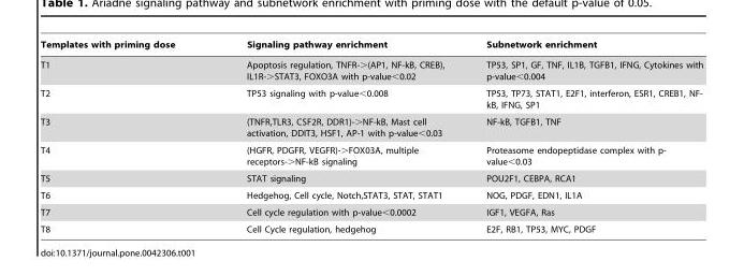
<table><thead><tr><td>Templates with priming dose</td><td>Signaling pathway enrichment</td><td>Subnetwork enrichment</td></tr></thead><tbody><tr><td>T1</td><td>Apoptosis regulation, TNFR-&gt;(AP1, NF-kB, CREB), IL1R-&gt;STAT3, FOXO3A with p-value&lt;0.02</td><td>TP53, SP1, GF, TNF, IL1B, TGFB1, IFNG, Cytokines with p-value&lt;0.004</td></tr><tr><td>T2</td><td>TP53 signaling with p-value&lt;0.008</td><td>TP53, TP73, STAT1, E2F1, interferon, ESR1, CREB1, NF- kB, IFNG, SP1</td></tr><tr><td>T3</td><td>(TNFR,TLR3, CSF2R, DDR1)-&gt;NF-kB, Mast cell activation, DDIT3, HSF1, AP-1 with p-value&lt;0.03</td><td>NF-kB, TGFB1, TNF</td></tr><tr><td>T4</td><td>(HGFR, PDGFR, VEGFR)-&gt;FOX03A, multiple receptors-&gt;NF-kB signaling</td><td>Proteasome endopeptidase complex with p- value&lt;0.03</td></tr><tr><td>T5</td><td>STAT signaling</td><td>POU2F1, CEBPA, RCA1</td></tr><tr><td>T6</td><td>Hedgehog, Cell cycle, Notch,STAT3, STAT, STAT1</td><td>NOG, PDGF, EDN1, IL1A</td></tr><tr><td>T7</td><td>Cell cycle regulation with p-value&lt;0.0002</td><td>IGF1, VEGFA, Ras</td></tr><tr><td>T8</td><td>Cell Cycle regulation, hedgehog</td><td>E2F, RB1, TP53, MYC, PDGF</td></tr></tbody></table>